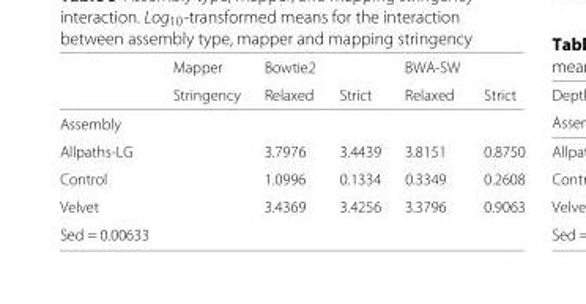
<table><thead><tr><td rowspan="2"></td><td rowspan="2">Mapper Stringency</td><td rowspan="2">Bowtie2 Relaxed</td><td rowspan="2">Strict</td><td rowspan="2">BWA-SW Relaxed</td><td rowspan="2">Strict</td></tr><tr></tr></thead><tbody><tr><td colspan="6">Assembly</td></tr><tr><td>Allpaths-LG</td><td></td><td>3.7976</td><td>3.4439</td><td>3.8151</td><td>0.8750</td></tr><tr><td>Control</td><td></td><td>1.0996</td><td>0.1334</td><td>0.3349</td><td>0.2608</td></tr><tr><td>Velvet</td><td></td><td>3.4369</td><td>3.4256</td><td>3.3796</td><td>0.9063</td></tr><tr><td>Sed = 0.00633</td><td></td><td></td><td></td><td></td><td></td></tr></tbody></table>